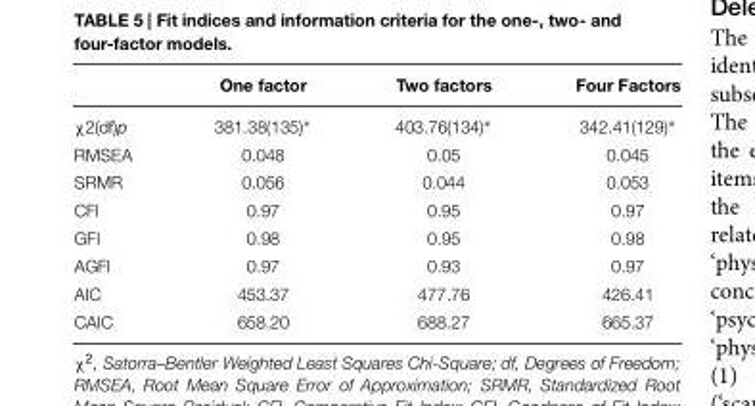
<table><thead><tr><td></td><td>One factor</td><td>Two factors</td><td>Four Factors</td></tr></thead><tbody><tr><td>χ2(df)p</td><td>381.38(135)∗</td><td>403.76(134)∗</td><td>342.41(129)∗</td></tr><tr><td>RMSEA</td><td>0.048</td><td>0.05</td><td>0.045</td></tr><tr><td>SRMR</td><td>0.056</td><td>0.044</td><td>0.053</td></tr><tr><td>CFI</td><td>0.97</td><td>0.95</td><td>0.97</td></tr><tr><td>GFI</td><td>0.98</td><td>0.95</td><td>0.98</td></tr><tr><td>AGFI</td><td>0.97</td><td>0.93</td><td>0.97</td></tr><tr><td>AIC</td><td>453.37</td><td>477.76</td><td>426.41</td></tr><tr><td>CAIC</td><td>658.20</td><td>688.27</td><td>665.37</td></tr></tbody></table>